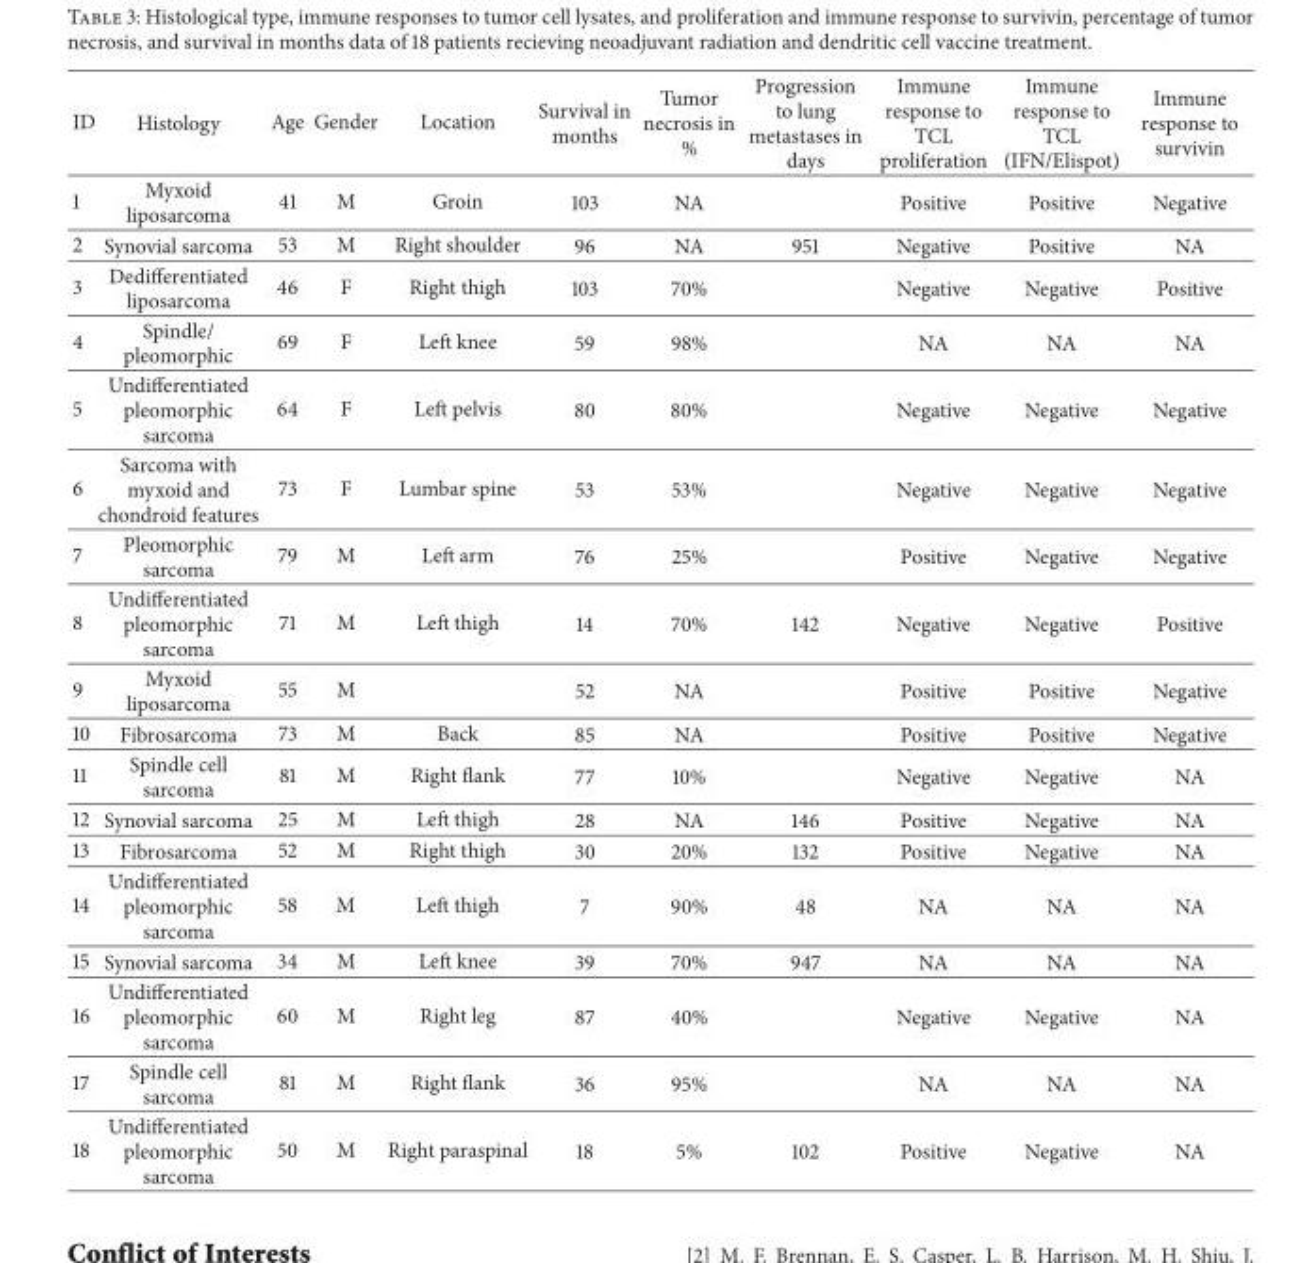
<table><thead><tr><td>ID</td><td>Histology</td><td>Age</td><td>Gender</td><td>Location</td><td>Survival in months</td><td>Tumor necrosis in %</td><td>Progression to lung metastases in days</td><td>Immune response to TCL proliferation</td><td>Immune response to TCL (IFN/Elispot)</td><td>Immune response to survivin</td></tr></thead><tbody><tr><td>1</td><td>Myxoid liposarcoma</td><td>41</td><td>M</td><td>Groin</td><td>103</td><td>NA</td><td></td><td>Positive</td><td>Positive</td><td>Negative</td></tr><tr><td>2</td><td>Synovial sarcoma</td><td>53</td><td>M</td><td>Right shoulder</td><td>96</td><td>NA</td><td>951</td><td>Negative</td><td>Positive</td><td>NA</td></tr><tr><td>3</td><td>Dedifferentiated liposarcoma</td><td>46</td><td>F</td><td>Right thigh</td><td>103</td><td>70%</td><td></td><td>Negative</td><td>Negative</td><td>Positive</td></tr><tr><td>4</td><td>Spindle/ pleomorphic</td><td>69</td><td>F</td><td>Left knee</td><td>59</td><td>98%</td><td></td><td>NA</td><td>NA</td><td>NA</td></tr><tr><td>5</td><td>Undifferentiated pleomorphic sarcoma</td><td>64</td><td>F</td><td>Left pelvis</td><td>80</td><td>80%</td><td></td><td>Negative</td><td>Negative</td><td>Negative</td></tr><tr><td>6</td><td>Sarcoma with myxoid and chondroid features</td><td>73</td><td>F</td><td>Lumbar spine</td><td>53</td><td>53%</td><td></td><td>Negative</td><td>Negative</td><td>Negative</td></tr><tr><td>7</td><td>Pleomorphic sarcoma</td><td>79</td><td>M</td><td>Left arm</td><td>76</td><td>25%</td><td></td><td>Positive</td><td>Negative</td><td>Negative</td></tr><tr><td>8</td><td>Undifferentiated pleomorphic sarcoma</td><td>71</td><td>M</td><td>Left thigh</td><td>14</td><td>70%</td><td>142</td><td>Negative</td><td>Negative</td><td>Positive</td></tr><tr><td>9</td><td>Myxoid liposarcoma</td><td>55</td><td>M</td><td></td><td>52</td><td>NA</td><td></td><td>Positive</td><td>Positive</td><td>Negative</td></tr><tr><td>10</td><td>Fibrosarcoma</td><td>73</td><td>M</td><td>Back</td><td>85</td><td>NA</td><td></td><td>Positive</td><td>Positive</td><td>Negative</td></tr><tr><td>11</td><td>Spindle cell sarcoma</td><td>81</td><td>M</td><td>Right flank</td><td>77</td><td>10%</td><td></td><td>Negative</td><td>Negative</td><td>NA</td></tr><tr><td>12</td><td>Synovial sarcoma</td><td>25</td><td>M</td><td>Left thigh</td><td>28</td><td>NA</td><td>146</td><td>Positive</td><td>Negative</td><td>NA</td></tr><tr><td>13</td><td>Fibrosarcoma</td><td>52</td><td>M</td><td>Right thigh</td><td>30</td><td>20%</td><td>132</td><td>Positive</td><td>Negative</td><td>NA</td></tr><tr><td>14</td><td>Undifferentiated pleomorphic sarcoma</td><td>58</td><td>M</td><td>Left thigh</td><td>7</td><td>90%</td><td>48</td><td>NA</td><td>NA</td><td>NA</td></tr><tr><td>15</td><td>Synovial sarcoma</td><td>34</td><td>M</td><td>Left knee</td><td>39</td><td>70%</td><td>947</td><td>NA</td><td>NA</td><td>NA</td></tr><tr><td>16</td><td>Undifferentiated pleomorphic sarcoma</td><td>60</td><td>M</td><td>Right leg</td><td>87</td><td>40%</td><td></td><td>Negative</td><td>Negative</td><td>NA</td></tr><tr><td>17</td><td>Spindle cell sarcoma</td><td>81</td><td>M</td><td>Right flank</td><td>36</td><td>95%</td><td></td><td>NA</td><td>NA</td><td>NA</td></tr><tr><td>18</td><td>Undifferentiated pleomorphic sarcoma</td><td>50</td><td>M</td><td>Right paraspinal</td><td>18</td><td>5%</td><td>102</td><td>Positive</td><td>Negative</td><td>NA</td></tr></tbody></table>